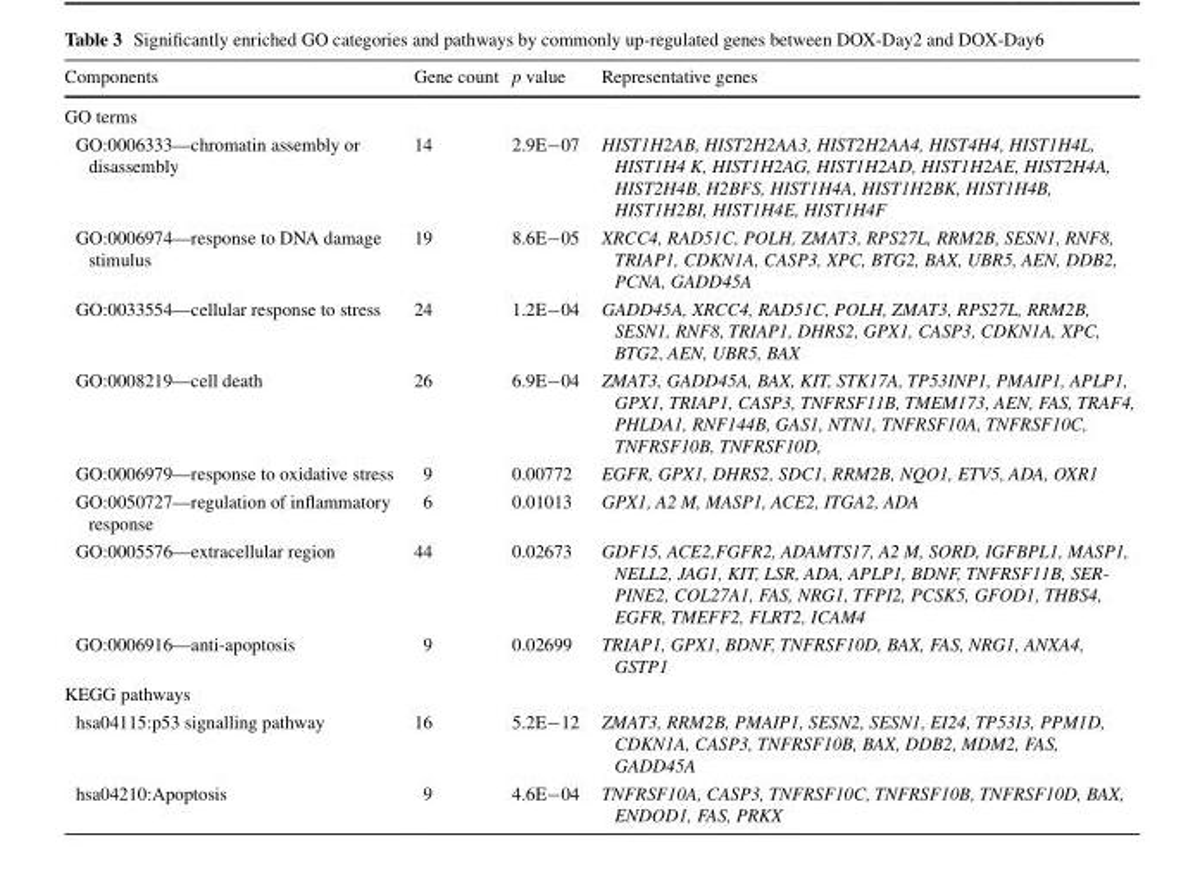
<table><thead><tr><td>Components</td><td>Gene count</td><td>p value</td><td>Representative genes</td></tr></thead><tbody><tr><td colspan="4">GO terms</td></tr><tr><td>GO:0006333—chromatin assembly or disassembly</td><td>14</td><td>2.9E−07</td><td>HIST1H2AB, HIST2H2AA3, HIST2H2AA4, HIST4H4, HIST1H4L, HIST1H4 K, HIST1H2AG, HIST1H2AD, HIST1H2AE, HIST2H4A, HIST2H4B, H2BFS, HIST1H4A, HIST1H2BK, HIST1H4B, HIST1H2BI, HIST1H4E, HIST1H4F</td></tr><tr><td>GO:0006974—response to DNA damage stimulus</td><td>19</td><td>8.6E−05</td><td>XRCC4, RAD51C, POLH, ZMAT3, RPS27L, RRM2B, SESN1, RNF8, TRIAP1, CDKN1A, CASP3, XPC, BTG2, BAX, UBR5, AEN, DDB2, PCNA, GADD45A</td></tr><tr><td>GO:0033554—cellular response to stress</td><td>24</td><td>1.2E−04</td><td>GADD45A, XRCC4, RAD51C, POLH, ZMAT3, RPS27L, RRM2B, SESN1, RNF8, TRIAP1, DHRS2, GPX1, CASP3, CDKN1A, XPC, BTG2, AEN, UBR5, BAX</td></tr><tr><td>GO:0008219—cell death</td><td>26</td><td>6.9E−04</td><td>ZMAT3, GADD45A, BAX, KIT, STK17A, TP53INP1, PMAIP1, APLP1, GPX1, TRIAP1, CASP3, TNFRSF11B, TMEM173, AEN, FAS, TRAF4, PHLDA1, RNF144B, GAS1, NTN1, TNFRSF10A, TNFRSF10C, TNFRSF10B, TNFRSF10D,</td></tr><tr><td>GO:0006979—response to oxidative stress</td><td>9</td><td>0.00772</td><td>EGFR, GPX1, DHRS2, SDC1, RRM2B, NQO1, ETV5, ADA, OXR1</td></tr><tr><td>GO:0050727—regulation of inflammatory response</td><td>6</td><td>0.01013</td><td>GPX1, A2 M, MASP1, ACE2, ITGA2, ADA</td></tr><tr><td>GO:0005576—extracellular region</td><td>44</td><td>0.02673</td><td>GDF15, ACE2,FGFR2, ADAMTS17, A2 M, SORD, IGFBPL1, MASP1, NELL2, JAG1, KIT, LSR, ADA, APLP1, BDNF, TNFRSF11B, SER- PINE2, COL27A1, FAS, NRG1, TFPI2, PCSK5, GFOD1, THBS4, EGFR, TMEFF2, FLRT2, ICAM4</td></tr><tr><td>GO:0006916—anti-apoptosis</td><td>9</td><td>0.02699</td><td>TRIAP1, GPX1, BDNF, TNFRSF10D, BAX, FAS, NRG1, ANXA4, GSTP1</td></tr><tr><td colspan="4">KEGG pathways</td></tr><tr><td>hsa04115:p53 signalling pathway</td><td>16</td><td>5.2E−12</td><td>ZMAT3, RRM2B, PMAIP1, SESN2, SESN1, EI24, TP53I3, PPM1D, CDKN1A, CASP3, TNFRSF10B, BAX, DDB2, MDM2, FAS, GADD45A</td></tr><tr><td>hsa04210:Apoptosis</td><td>9</td><td>4.6E−04</td><td>TNFRSF10A, CASP3, TNFRSF10C, TNFRSF10B, TNFRSF10D, BAX, ENDOD1, FAS, PRKX</td></tr></tbody></table>